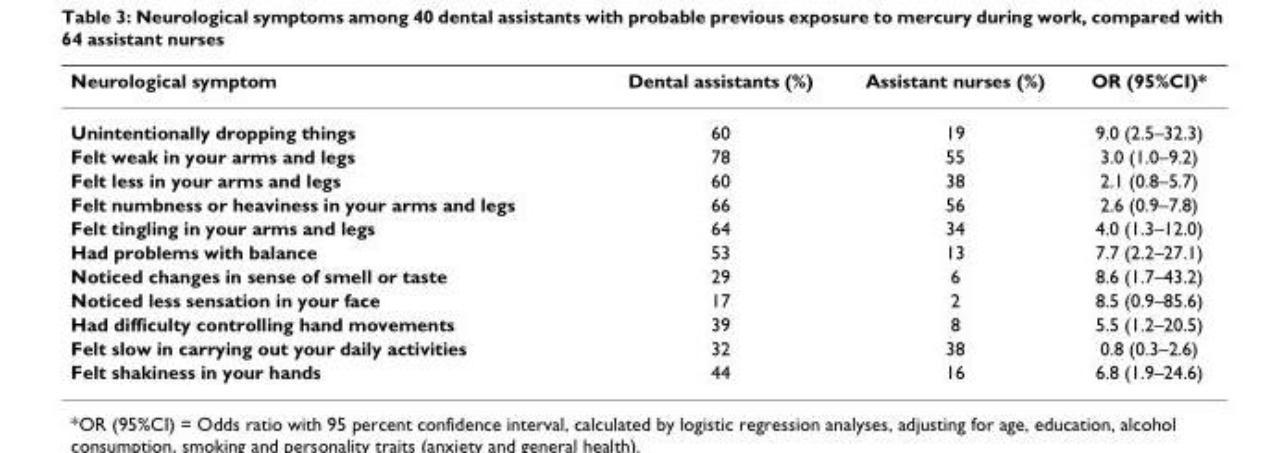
<table><thead><tr><td>Neurological symptom</td><td>Dental assistants (%)</td><td>Assistant nurses (%)</td><td>OR (95%CI)*</td></tr></thead><tbody><tr><td>Unintentionally dropping things</td><td>60</td><td>19</td><td>9.0 (2.5–32.3)</td></tr><tr><td>Felt weak in your arms and legs</td><td>78</td><td>55</td><td>3.0 (1.0–9.2)</td></tr><tr><td>Felt less in your arms and legs</td><td>60</td><td>38</td><td>2.1 (0.8–5.7)</td></tr><tr><td>Felt numbness or heaviness in your arms and legs</td><td>66</td><td>56</td><td>2.6 (0.9–7.8)</td></tr><tr><td>Felt tingling in your arms and legs</td><td>64</td><td>34</td><td>4.0 (1.3–12.0)</td></tr><tr><td>Had problems with balance</td><td>53</td><td>13</td><td>7.7 (2.2–27.1)</td></tr><tr><td>Noticed changes in sense of smell or taste</td><td>29</td><td>6</td><td>8.6 (1.7–43.2)</td></tr><tr><td>Noticed less sensation in your face</td><td>17</td><td>2</td><td>8.5 (0.9–85.6)</td></tr><tr><td>Had difficulty controlling hand movements</td><td>39</td><td>8</td><td>5.5 (1.2–20.5)</td></tr><tr><td>Felt slow in carrying out your daily activities</td><td>32</td><td>38</td><td>0.8 (0.3–2.6)</td></tr><tr><td>Felt shakiness in your hands</td><td>44</td><td>16</td><td>6.8 (1.9–24.6)</td></tr></tbody></table>